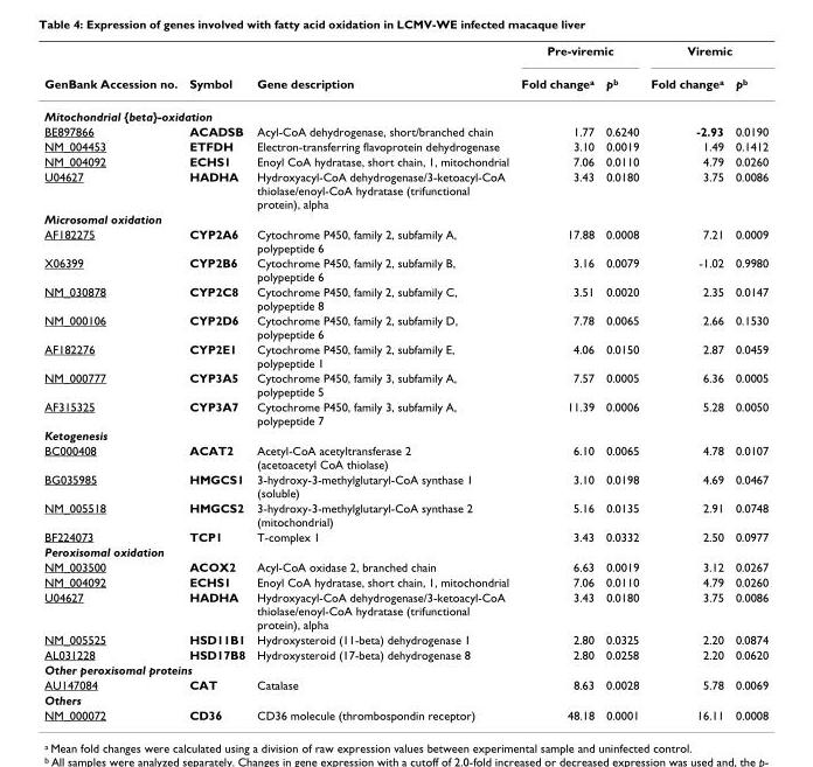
<table><thead><tr><td rowspan="2">GenBank Accession no.</td><td rowspan="2">Symbol</td><td rowspan="2">Gene description</td><td colspan="2">Pre-viremic</td><td colspan="2">Viremic</td></tr><tr><td>Fold change<sup>a</sup></td><td>p<sup>b</sup></td><td>Fold change<sup>a</sup></td><td>p<sup>b</sup></td></tr></thead><tbody><tr><td colspan="7">Mitochondrial {beta}-oxidation</td></tr><tr><td>BE897866</td><td>ACADSB</td><td>Acyl-CoA dehydrogenase, short/branched chain</td><td>1.77</td><td>0.6240</td><td>-2.93</td><td>0.0190</td></tr><tr><td>NM_004453</td><td>ETFDH</td><td>Electron-transferring flavoprotein dehydrogenase</td><td>3.10</td><td>0.0019</td><td>1.49</td><td>0.1412</td></tr><tr><td>NM_004092</td><td>ECHS1</td><td>Enoyl CoA hydratase, short chain, 1, mitochondrial</td><td>7.06</td><td>0.0110</td><td>4.79</td><td>0.0260</td></tr><tr><td>U04627</td><td>HADHA</td><td>Hydroxyacyl-CoA dehydrogenase/3-ketoacyl-CoA thiolase/enoyl-CoA hydratase (trifunctional protein), alpha</td><td>3.43</td><td>0.0180</td><td>3.75</td><td>0.0086</td></tr><tr><td colspan="7">Microsomal oxidation</td></tr><tr><td>AF182275</td><td>CYP2A6</td><td>Cytochrome P450, family 2, subfamily A, polypeptide 6</td><td>17.88</td><td>0.0008</td><td>7.21</td><td>0.0009</td></tr><tr><td>X06399</td><td>CYP2B6</td><td>Cytochrome P450, family 2, subfamily B, polypeptide 6</td><td>3.16</td><td>0.0079</td><td>-1.02</td><td>0.9980</td></tr><tr><td>NM_030878</td><td>CYP2C8</td><td>Cytochrome P450, family 2, subfamily C, polypeptide 8</td><td>3.51</td><td>0.0020</td><td>2.35</td><td>0.0147</td></tr><tr><td>NM_000106</td><td>CYP2D6</td><td>Cytochrome P450, family 2, subfamily D, polypeptide 6</td><td>7.78</td><td>0.0065</td><td>2.66</td><td>0.1530</td></tr><tr><td>AF182276</td><td>CYP2E1</td><td>Cytochrome P450, family 2, subfamily E, polypeptide 1</td><td>4.06</td><td>0.0150</td><td>2.87</td><td>0.0459</td></tr><tr><td>NM_000777</td><td>CYP3A5</td><td>Cytochrome P450, family 3, subfamily A, polypeptide 5</td><td>7.57</td><td>0.0005</td><td>6.36</td><td>0.0005</td></tr><tr><td>AF315325</td><td>CYP3A7</td><td>Cytochrome P450, family 3, subfamily A, polypeptide 7</td><td>11.39</td><td>0.0006</td><td>5.28</td><td>0.0050</td></tr><tr><td colspan="7">Ketogenesis</td></tr><tr><td>BC000408</td><td>ACAT2</td><td>Acetyl-CoA acetyltransferase 2 (acetoacetyl CoA thiolase)</td><td>6.10</td><td>0.0065</td><td>4.78</td><td>0.0107</td></tr><tr><td>BG035985</td><td>HMGCS1</td><td>3-hydroxy-3-methylglutaryl-CoA synthase 1 (soluble)</td><td>3.10</td><td>0.0198</td><td>4.69</td><td>0.0467</td></tr><tr><td>NM_005518</td><td>HMGCS2</td><td>3-hydroxy-3-methylglutaryl-CoA synthase 2 (mitochondrial)</td><td>5.16</td><td>0.0135</td><td>2.91</td><td>0.0748</td></tr><tr><td>BF224073</td><td>TCP1</td><td>T-complex 1</td><td>3.43</td><td>0.0332</td><td>2.50</td><td>0.0977</td></tr><tr><td colspan="7">Peroxisomal oxidation</td></tr><tr><td>NM_003500</td><td>ACOX2</td><td>Acyl-CoA oxidase 2, branched chain</td><td>6.63</td><td>0.0019</td><td>3.12</td><td>0.0267</td></tr><tr><td>NM_004092</td><td>ECHS1</td><td>Enoyl CoA hydratase, short chain, 1, mitochondrial</td><td>7.06</td><td>0.0110</td><td>4.79</td><td>0.0260</td></tr><tr><td>U04627</td><td>HADHA</td><td>Hydroxyacyl-CoA dehydrogenase/3-ketoacyl-CoA thiolase/enoyl-CoA hydratase (trifunctional protein), alpha</td><td>3.43</td><td>0.0180</td><td>3.75</td><td>0.0086</td></tr><tr><td>NM_005525</td><td>HSD11B1</td><td>Hydroxysteroid (11-beta) dehydrogenase 1</td><td>2.80</td><td>0.0325</td><td>2.20</td><td>0.0874</td></tr><tr><td>AL031228</td><td>HSD17B8</td><td>Hydroxysteroid (17-beta) dehydrogenase 8</td><td>2.80</td><td>0.0258</td><td>2.20</td><td>0.0620</td></tr><tr><td colspan="7">Other peroxisomal proteins</td></tr><tr><td>AU147084</td><td>CAT</td><td>Catalase</td><td>8.63</td><td>0.0028</td><td>5.78</td><td>0.0069</td></tr><tr><td colspan="7">Others</td></tr><tr><td>NM_000072</td><td>CD36</td><td>CD36 molecule (thrombospondin receptor)</td><td>48.18</td><td>0.0001</td><td>16.11</td><td>0.0008</td></tr></tbody></table>